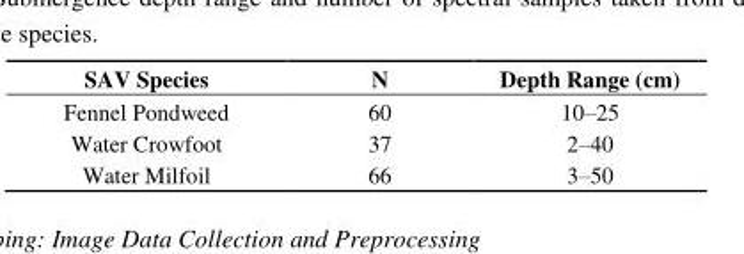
<table><thead><tr><td>SAV Species</td><td>N</td><td>Depth Range (cm)</td></tr></thead><tbody><tr><td>Fennel Pondweed</td><td>60</td><td>10–25</td></tr><tr><td>Water Crowfoot</td><td>37</td><td>2–40</td></tr><tr><td>Water Milfoil</td><td>66</td><td>3–50</td></tr></tbody></table>